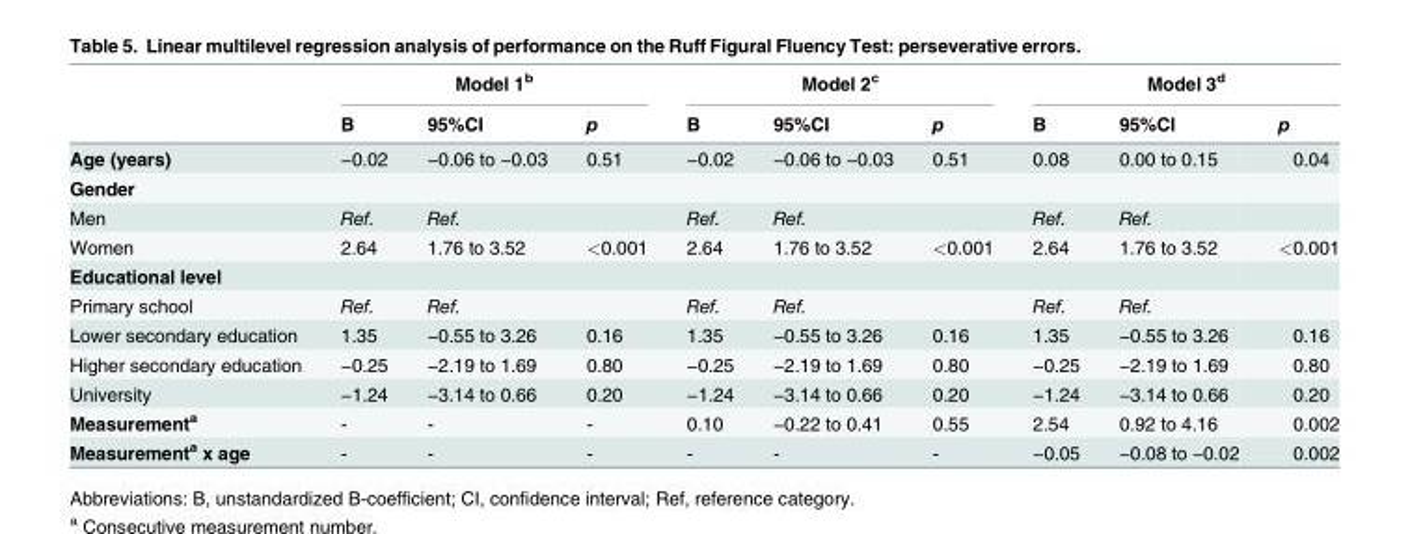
<table><thead><tr><td rowspan="2"></td><td colspan="3">Model 1<sup>b</sup></td><td colspan="3">Model 2<sup>c</sup></td><td colspan="3">Model 3<sup>d</sup></td></tr><tr><td>B</td><td>95%CI</td><td>p</td><td>B</td><td>95%CI</td><td>p</td><td>B</td><td>95%CI</td><td>p</td></tr></thead><tbody><tr><td>Age (years)</td><td>−0.02</td><td>−0.06 to −0.03</td><td>0.51</td><td>−0.02</td><td>−0.06 to −0.03</td><td>0.51</td><td>0.08</td><td>0.00 to 0.15</td><td>0.04</td></tr><tr><td colspan="10">Gender</td></tr><tr><td>Men</td><td>Ref.</td><td>Ref.</td><td></td><td>Ref.</td><td>Ref.</td><td></td><td>Ref.</td><td>Ref.</td><td></td></tr><tr><td>Women</td><td>2.64</td><td>1.76 to 3.52</td><td>&lt;0.001</td><td>2.64</td><td>1.76 to 3.52</td><td>&lt;0.001</td><td>2.64</td><td>1.76 to 3.52</td><td>&lt;0.001</td></tr><tr><td colspan="10">Educational level</td></tr><tr><td>Primary school</td><td>Ref.</td><td>Ref.</td><td></td><td>Ref.</td><td>Ref.</td><td></td><td>Ref.</td><td>Ref.</td><td></td></tr><tr><td>Lower secondary education</td><td>1.35</td><td>−0.55 to 3.26</td><td>0.16</td><td>1.35</td><td>−0.55 to 3.26</td><td>0.16</td><td>1.35</td><td>−0.55 to 3.26</td><td>0.16</td></tr><tr><td>Higher secondary education</td><td>−0.25</td><td>−2.19 to 1.69</td><td>0.80</td><td>−0.25</td><td>−2.19 to 1.69</td><td>0.80</td><td>−0.25</td><td>−2.19 to 1.69</td><td>0.80</td></tr><tr><td>University</td><td>−1.24</td><td>−3.14 to 0.66</td><td>0.20</td><td>−1.24</td><td>−3.14 to 0.66</td><td>0.20</td><td>−1.24</td><td>−3.14 to 0.66</td><td>0.20</td></tr><tr><td>Measurement<sup>a</sup></td><td>-</td><td>-</td><td>-</td><td>0.10</td><td>−0.22 to 0.41</td><td>0.55</td><td>2.54</td><td>0.92 to 4.16</td><td>0.002</td></tr><tr><td>Measurement<sup>a</sup> x age</td><td>-</td><td>-</td><td>-</td><td>-</td><td>-</td><td>-</td><td>−0.05</td><td>−0.08 to −0.02</td><td>0.002</td></tr></tbody></table>